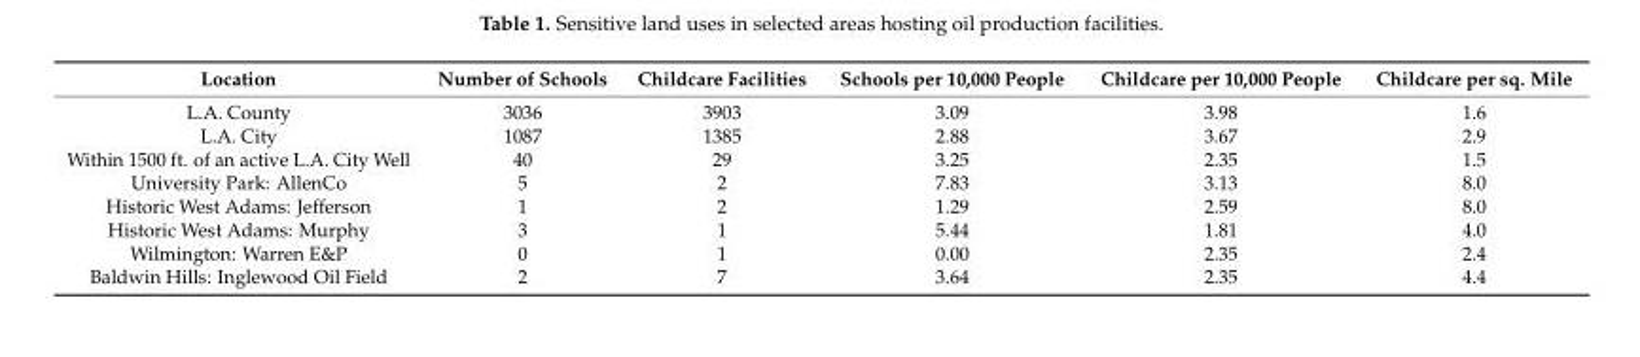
<table><thead><tr><td>Location</td><td>Number of Schools</td><td>Childcare Facilities</td><td>Schools per 10,000 People</td><td>Childcare per 10,000 People</td><td>Childcare per sq. Mile</td></tr></thead><tbody><tr><td>L.A. County</td><td>3036</td><td>3903</td><td>3.09</td><td>3.98</td><td>1.6</td></tr><tr><td>L.A. City</td><td>1087</td><td>1385</td><td>2.88</td><td>3.67</td><td>2.9</td></tr><tr><td>Within 1500 ft. of an active L.A. City Well</td><td>40</td><td>29</td><td>3.25</td><td>2.35</td><td>1.5</td></tr><tr><td>University Park: AllenCo</td><td>5</td><td>2</td><td>7.83</td><td>3.13</td><td>8.0</td></tr><tr><td>Historic West Adams: Jefferson</td><td>1</td><td>2</td><td>1.29</td><td>2.59</td><td>8.0</td></tr><tr><td>Historic West Adams: Murphy</td><td>3</td><td>1</td><td>5.44</td><td>1.81</td><td>4.0</td></tr><tr><td>Wilmington: Warren E&amp;P</td><td>0</td><td>1</td><td>0.00</td><td>2.35</td><td>2.4</td></tr><tr><td>Baldwin Hills: Inglewood Oil Field</td><td>2</td><td>7</td><td>3.64</td><td>2.35</td><td>4.4</td></tr></tbody></table>